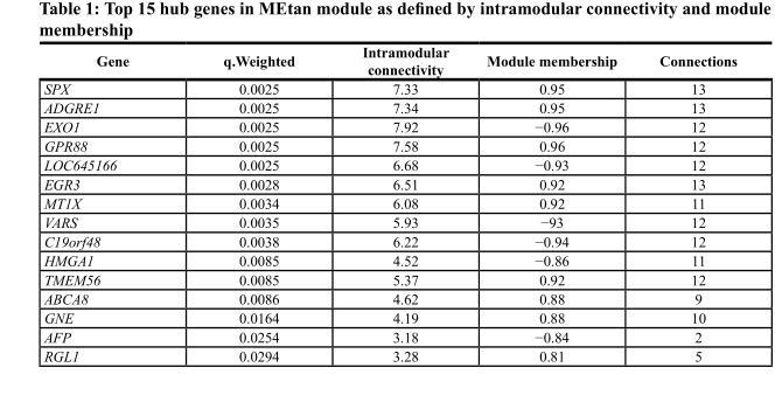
<table><thead><tr><td>Gene</td><td>q.Weighted</td><td>Intramodular connectivity</td><td>Module membership</td><td>Connections</td></tr></thead><tbody><tr><td>SPX</td><td>0.0025</td><td>7.33</td><td>0.95</td><td>13</td></tr><tr><td>ADGRE1</td><td>0.0025</td><td>7.34</td><td>0.95</td><td>13</td></tr><tr><td>EXO1</td><td>0.0025</td><td>7.92</td><td>−0.96</td><td>12</td></tr><tr><td>GPR88</td><td>0.0025</td><td>7.58</td><td>0.96</td><td>12</td></tr><tr><td>LOC645166</td><td>0.0025</td><td>6.68</td><td>−0.93</td><td>12</td></tr><tr><td>EGR3</td><td>0.0028</td><td>6.51</td><td>0.92</td><td>13</td></tr><tr><td>MT1X</td><td>0.0034</td><td>6.08</td><td>0.92</td><td>11</td></tr><tr><td>VARS</td><td>0.0035</td><td>5.93</td><td>−93</td><td>12</td></tr><tr><td>C19orf48</td><td>0.0038</td><td>6.22</td><td>−0.94</td><td>12</td></tr><tr><td>HMGA1</td><td>0.0085</td><td>4.52</td><td>−0.86</td><td>11</td></tr><tr><td>TMEM56</td><td>0.0085</td><td>5.37</td><td>0.92</td><td>12</td></tr><tr><td>ABCA8</td><td>0.0086</td><td>4.62</td><td>0.88</td><td>9</td></tr><tr><td>GNE</td><td>0.0164</td><td>4.19</td><td>0.88</td><td>10</td></tr><tr><td>AFP</td><td>0.0254</td><td>3.18</td><td>−0.84</td><td>2</td></tr><tr><td>RGL1</td><td>0.0294</td><td>3.28</td><td>0.81</td><td>5</td></tr></tbody></table>